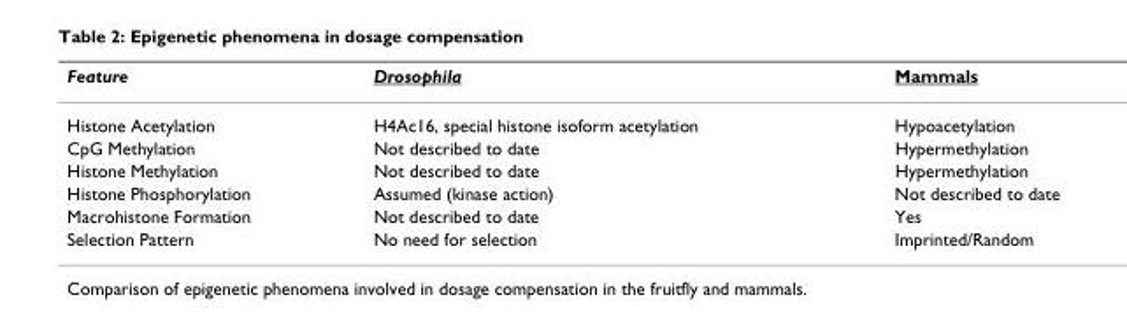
<table><thead><tr><td>Feature</td><td>Drosophila</td><td>Mammals</td></tr></thead><tbody><tr><td>Histone Acetylation</td><td>H4Ac16, special histone isoform acetylation</td><td>Hypoacetylation</td></tr><tr><td>CpG Methylation</td><td>Not described to date</td><td>Hypermethylation</td></tr><tr><td>Histone Methylation</td><td>Not described to date</td><td>Hypermethylation</td></tr><tr><td>Histone Phosphorylation</td><td>Assumed (kinase action)</td><td>Not described to date</td></tr><tr><td>Macrohistone Formation</td><td>Not described to date</td><td>Yes</td></tr><tr><td>Selection Pattern</td><td>No need for selection</td><td>Imprinted/Random</td></tr></tbody></table>